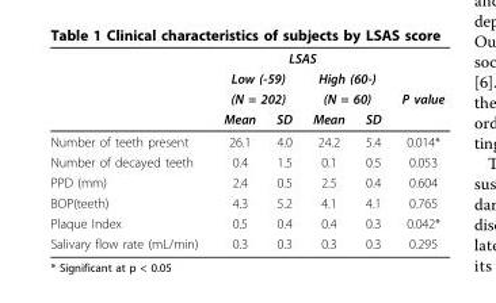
<table><thead><tr><td rowspan="4"></td><td colspan="4">LSAS</td><td rowspan="4">P value</td></tr><tr><td rowspan="2" colspan="2">Low (-59) (N = 202)</td><td rowspan="2" colspan="2">High (60-) (N = 60)</td></tr><tr></tr><tr><td>Mean</td><td>SD</td><td>Mean</td><td>SD</td></tr></thead><tbody><tr><td>Number of teeth present</td><td>26.1</td><td>4.0</td><td>24.2</td><td>5.4</td><td>0.014*</td></tr><tr><td>Number of decayed teeth</td><td>0.4</td><td>1.5</td><td>0.1</td><td>0.5</td><td>0.053</td></tr><tr><td>PPD (mm)</td><td>2.4</td><td>0.5</td><td>2.5</td><td>0.4</td><td>0.604</td></tr><tr><td>BOP(teeth)</td><td>4.3</td><td>5.2</td><td>4.1</td><td>4.1</td><td>0.765</td></tr><tr><td>Plaque Index</td><td>0.5</td><td>0.4</td><td>0.4</td><td>0.3</td><td>0.042*</td></tr><tr><td>Salivary flow rate (mL/min)</td><td>0.3</td><td>0.3</td><td>0.3</td><td>0.3</td><td>0.295</td></tr></tbody></table>